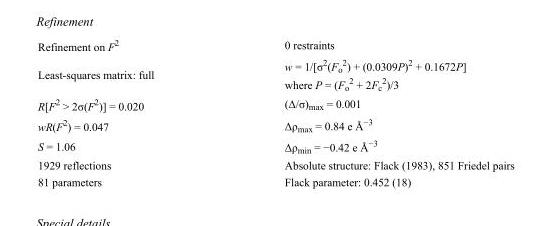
<table><tbody><tr><td>Refinement on F<sup>2</sup></td><td>0 restraints</td></tr><tr><td>Least-squares matrix: full</td><td>w = 1/[σ<sup>2</sup>(F<sub>o</sub> <sup>2</sup>) + (0.0309P)<sup>2</sup> + 0.1672P] where P = (F<sub>o</sub> <sup>2</sup> + 2F<sub>c</sub> <sup>2</sup>)/3</td></tr><tr><td>R[F<sup>2</sup> &gt; 2σ(F<sup>2</sup>)] = 0.020</td><td>(Δ/σ)<sub>max</sub> = 0.001</td></tr><tr><td>wR(F<sup>2</sup>) = 0.047</td><td>Δρ<sub>max</sub> = 0.84 e Å<sup>−3</sup></td></tr><tr><td>S = 1.06</td><td>Δρ<sub>min</sub> = −0.42 e Å<sup>−3</sup></td></tr><tr><td>1929 reflections</td><td>Absolute structure: Flack (1983), 851 Friedel pairs</td></tr><tr><td>81 parameters</td><td>Flack parameter: 0.452 (18)</td></tr></tbody></table>